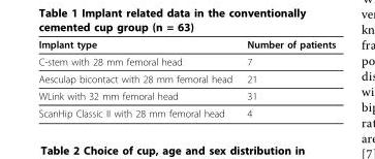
<table><thead><tr><td>Implant type</td><td>Number of patients</td></tr></thead><tbody><tr><td>C-stem with 28 mm femoral head</td><td>7</td></tr><tr><td>Aesculap bicontact with 28 mm femoral head</td><td>21</td></tr><tr><td>WLink with 32 mm femoral head</td><td>31</td></tr><tr><td>ScanHip Classic II with 28 mm femoral head</td><td>4</td></tr></tbody></table>